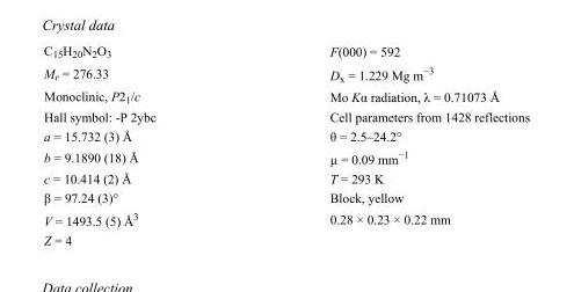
<table><tbody><tr><td>C<sub>15</sub>H<sub>20</sub>N<sub>2</sub>O<sub>3</sub></td><td>F(000) = 592</td></tr><tr><td>M<sub>r</sub> = 276.33</td><td>D<sub>x</sub> = 1.229 Mg m<sup>−3</sup></td></tr><tr><td>Monoclinic, P2<sub>1</sub>/c</td><td>Mo Kα radiation, λ = 0.71073 Å</td></tr><tr><td>Hall symbol: -P 2ybc</td><td>Cell parameters from 1428 reflections</td></tr><tr><td>a = 15.732 (3) Å</td><td>θ = 2.5–24.2°</td></tr><tr><td>b = 9.1890 (18) Å</td><td>µ = 0.09 mm<sup>−1</sup></td></tr><tr><td>c = 10.414 (2) Å</td><td>T = 293 K</td></tr><tr><td>β = 97.24 (3)°</td><td>Block, yellow</td></tr><tr><td>V = 1493.5 (5) Å<sup>3</sup></td><td>0.28 × 0.23 × 0.22 mm</td></tr><tr><td>Z = 4</td><td></td></tr></tbody></table>